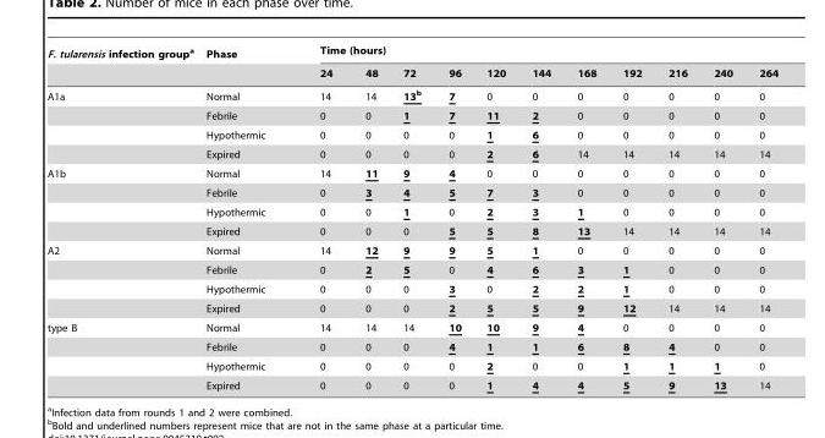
<table><thead><tr><td rowspan="2">F. tularensis infection group<sup>a</sup></td><td rowspan="2">Phase</td><td colspan="11">Time (hours)</td></tr><tr><td>24</td><td>48</td><td>72</td><td>96</td><td>120</td><td>144</td><td>168</td><td>192</td><td>216</td><td>240</td><td>264</td></tr></thead><tbody><tr><td rowspan="4">A1a</td><td>Normal</td><td>14</td><td>14</td><td>13b</td><td>7</td><td>0</td><td>0</td><td>0</td><td>0</td><td>0</td><td>0</td><td>0</td></tr><tr><td>Febrile</td><td>0</td><td>0</td><td>1</td><td>7</td><td>11</td><td>2</td><td>0</td><td>0</td><td>0</td><td>0</td><td>0</td></tr><tr><td>Hypothermic</td><td>0</td><td>0</td><td>0</td><td>0</td><td>1</td><td>6</td><td>0</td><td>0</td><td>0</td><td>0</td><td>0</td></tr><tr><td>Expired</td><td>0</td><td>0</td><td>0</td><td>0</td><td>2</td><td>6</td><td>14</td><td>14</td><td>14</td><td>14</td><td>14</td></tr><tr><td rowspan="4">A1b</td><td>Normal</td><td>14</td><td>11</td><td>9</td><td>4</td><td>0</td><td>0</td><td>0</td><td>0</td><td>0</td><td>0</td><td>0</td></tr><tr><td>Febrile</td><td>0</td><td>3</td><td>4</td><td>5</td><td>7</td><td>3</td><td>0</td><td>0</td><td>0</td><td>0</td><td>0</td></tr><tr><td>Hypothermic</td><td>0</td><td>0</td><td>1</td><td>0</td><td>2</td><td>3</td><td>1</td><td>0</td><td>0</td><td>0</td><td>0</td></tr><tr><td>Expired</td><td>0</td><td>0</td><td>0</td><td>5</td><td>5</td><td>8</td><td>13</td><td>14</td><td>14</td><td>14</td><td>14</td></tr><tr><td rowspan="4">A2</td><td>Normal</td><td>14</td><td>12</td><td>9</td><td>9</td><td>5</td><td>1</td><td>0</td><td>0</td><td>0</td><td>0</td><td>0</td></tr><tr><td>Febrile</td><td>0</td><td>2</td><td>5</td><td>0</td><td>4</td><td>6</td><td>3</td><td>1</td><td>0</td><td>0</td><td>0</td></tr><tr><td>Hypothermic</td><td>0</td><td>0</td><td>0</td><td>3</td><td>0</td><td>2</td><td>2</td><td>1</td><td>0</td><td>0</td><td>0</td></tr><tr><td>Expired</td><td>0</td><td>0</td><td>0</td><td>2</td><td>5</td><td>5</td><td>9</td><td>12</td><td>14</td><td>14</td><td>14</td></tr><tr><td rowspan="4">type B</td><td>Normal</td><td>14</td><td>14</td><td>14</td><td>10</td><td>10</td><td>9</td><td>4</td><td>0</td><td>0</td><td>0</td><td>0</td></tr><tr><td>Febrile</td><td>0</td><td>0</td><td>0</td><td>4</td><td>1</td><td>1</td><td>6</td><td>8</td><td>4</td><td>0</td><td>0</td></tr><tr><td>Hypothermic</td><td>0</td><td>0</td><td>0</td><td>0</td><td>2</td><td>0</td><td>0</td><td>1</td><td>1</td><td>1</td><td>0</td></tr><tr><td>Expired</td><td>0</td><td>0</td><td>0</td><td>0</td><td>1</td><td>4</td><td>4</td><td>5</td><td>9</td><td>13</td><td>14</td></tr></tbody></table>